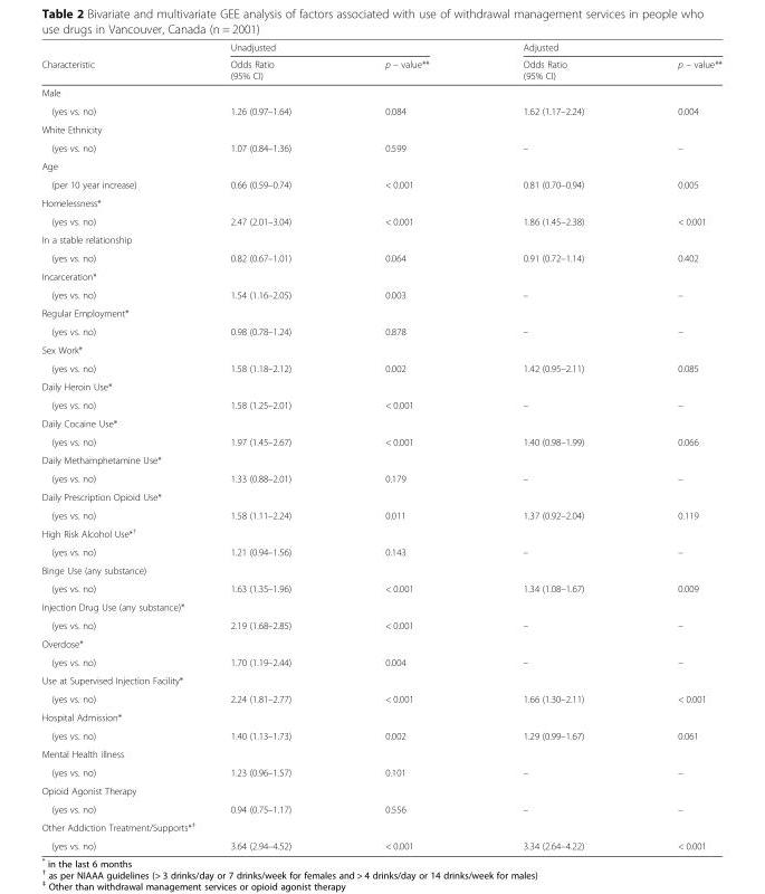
<table><thead><tr><td rowspan="2">Characteristic</td><td colspan="2">Unadjusted</td><td colspan="2">Adjusted</td></tr><tr><td>Odds Ratio (95% CI)</td><td>p – value**</td><td>Odds Ratio (95% CI)</td><td>p – value**</td></tr></thead><tbody><tr><td colspan="5">Male</td></tr><tr><td>(yes vs. no)</td><td>1.26 (0.97–1.64)</td><td>0.084</td><td>1.62 (1.17–2.24)</td><td>0.004</td></tr><tr><td colspan="5">White Ethnicity</td></tr><tr><td>(yes vs. no)</td><td>1.07 (0.84–1.36)</td><td>0.599</td><td>–</td><td>–</td></tr><tr><td colspan="5">Age</td></tr><tr><td>(per 10 year increase)</td><td>0.66 (0.59–0.74)</td><td>&lt; 0.001</td><td>0.81 (0.70–0.94)</td><td>0.005</td></tr><tr><td colspan="5">Homelessness*</td></tr><tr><td>(yes vs. no)</td><td>2.47 (2.01–3.04)</td><td>&lt; 0.001</td><td>1.86 (1.45–2.38)</td><td>&lt; 0.001</td></tr><tr><td colspan="5">In a stable relationship</td></tr><tr><td>(yes vs. no)</td><td>0.82 (0.67–1.01)</td><td>0.064</td><td>0.91 (0.72–1.14)</td><td>0.402</td></tr><tr><td colspan="5">Incarceration*</td></tr><tr><td>(yes vs. no)</td><td>1.54 (1.16–2.05)</td><td>0.003</td><td>–</td><td>–</td></tr><tr><td colspan="5">Regular Employment*</td></tr><tr><td>(yes vs. no)</td><td>0.98 (0.78–1.24)</td><td>0.878</td><td>–</td><td>–</td></tr><tr><td colspan="5">Sex Work*</td></tr><tr><td>(yes vs. no)</td><td>1.58 (1.18–2.12)</td><td>0.002</td><td>1.42 (0.95–2.11)</td><td>0.085</td></tr><tr><td colspan="5">Daily Heroin Use*</td></tr><tr><td>(yes vs. no)</td><td>1.58 (1.25–2.01)</td><td>&lt; 0.001</td><td>–</td><td>–</td></tr><tr><td colspan="5">Daily Cocaine Use*</td></tr><tr><td>(yes vs. no)</td><td>1.97 (1.45–2.67)</td><td>&lt; 0.001</td><td>1.40 (0.98–1.99)</td><td>0.066</td></tr><tr><td colspan="5">Daily Methamphetamine Use*</td></tr><tr><td>(yes vs. no)</td><td>1.33 (0.88–2.01)</td><td>0.179</td><td>–</td><td>–</td></tr><tr><td colspan="5">Daily Prescription Opioid Use*</td></tr><tr><td>(yes vs. no)</td><td>1.58 (1.11–2.24)</td><td>0.011</td><td>1.37 (0.92–2.04)</td><td>0.119</td></tr><tr><td colspan="5">High Risk Alcohol Use*<sup>†</sup></td></tr><tr><td>(yes vs. no)</td><td>1.21 (0.94–1.56)</td><td>0.143</td><td>–</td><td>–</td></tr><tr><td colspan="5">Binge Use (any substance)</td></tr><tr><td>(yes vs. no)</td><td>1.63 (1.35–1.96)</td><td>&lt; 0.001</td><td>1.34 (1.08–1.67)</td><td>0.009</td></tr><tr><td colspan="5">Injection Drug Use (any substance)*</td></tr><tr><td>(yes vs. no)</td><td>2.19 (1.68–2.85)</td><td>&lt; 0.001</td><td>–</td><td>–</td></tr><tr><td colspan="5">Overdose*</td></tr><tr><td>(yes vs. no)</td><td>1.70 (1.19–2.44)</td><td>0.004</td><td>–</td><td>–</td></tr><tr><td colspan="5">Use at Supervised Injection Facility*</td></tr><tr><td>(yes vs. no)</td><td>2.24 (1.81–2.77)</td><td>&lt; 0.001</td><td>1.66 (1.30–2.11)</td><td>&lt; 0.001</td></tr><tr><td colspan="5">Hospital Admission*</td></tr><tr><td>(yes vs. no)</td><td>1.40 (1.13–1.73)</td><td>0.002</td><td>1.29 (0.99–1.67)</td><td>0.061</td></tr><tr><td colspan="5">Mental Health illness</td></tr><tr><td>(yes vs. no)</td><td>1.23 (0.96–1.57)</td><td>0.101</td><td>–</td><td>–</td></tr><tr><td colspan="5">Opioid Agonist Therapy</td></tr><tr><td>(yes vs. no)</td><td>0.94 (0.75–1.17)</td><td>0.556</td><td>–</td><td>–</td></tr><tr><td colspan="5">Other Addiction Treatment/Supports*<sup>‡</sup></td></tr><tr><td>(yes vs. no)</td><td>3.64 (2.94–4.52)</td><td>&lt; 0.001</td><td>3.34 (2.64–4.22)</td><td>&lt; 0.001</td></tr></tbody></table>